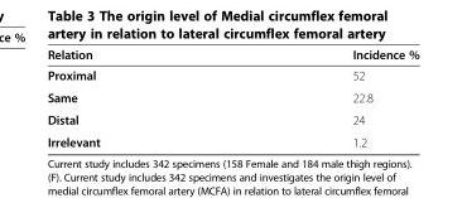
<table><thead><tr><td>Relation</td><td>Incidence %</td></tr></thead><tbody><tr><td>Proximal</td><td>52</td></tr><tr><td>Same</td><td>22.8</td></tr><tr><td>Distal</td><td>24</td></tr><tr><td>Irrelevant</td><td>1.2</td></tr></tbody></table>